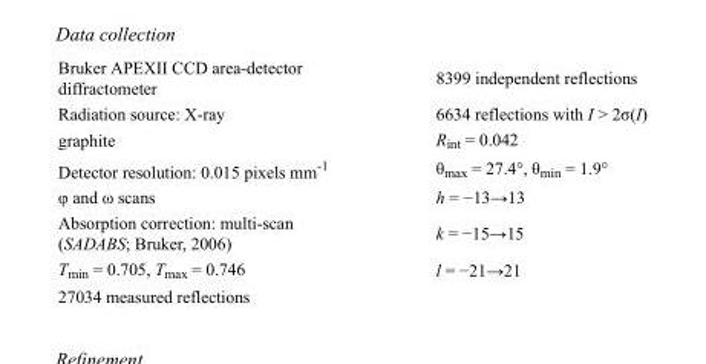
<table><tbody><tr><td>Bruker APEXII CCD area-detector diffractometer</td><td>8399 independent reflections</td></tr><tr><td>Radiation source: X-ray</td><td>6634 reflections with I &gt; 2σ(I)</td></tr><tr><td>graphite</td><td>R<sub>int</sub> = 0.042</td></tr><tr><td>Detector resolution: 0.015 pixels mm<sup>-1</sup></td><td>θ<sub>max</sub> = 27.4°, θ<sub>min</sub> = 1.9°</td></tr><tr><td>φ and ω scans</td><td>h = −13→13</td></tr><tr><td>Absorption correction: multi-scan (SADABS; Bruker, 2006)</td><td>k = −15→15</td></tr><tr><td>T<sub>min</sub> = 0.705, T<sub>max</sub> = 0.746</td><td>l = −21→21</td></tr><tr><td>27034 measured reflections</td><td></td></tr></tbody></table>